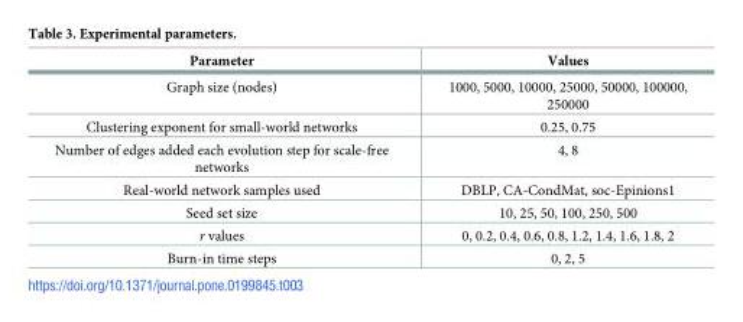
<table><thead><tr><td>Parameter</td><td>Values</td></tr></thead><tbody><tr><td>Graph size (nodes)</td><td>1000, 5000, 10000, 25000, 50000, 100000, 250000</td></tr><tr><td>Clustering exponent for small-world networks</td><td>0.25, 0.75</td></tr><tr><td>Number of edges added each evolution step for scale-free networks</td><td>4, 8</td></tr><tr><td>Real-world network samples used</td><td>DBLP, CA-CondMat, soc-Epinions1</td></tr><tr><td>Seed set size</td><td>10, 25, 50, 100, 250, 500</td></tr><tr><td>r values</td><td>0, 0.2, 0.4, 0.6, 0.8, 1.2, 1.4, 1.6, 1.8, 2</td></tr><tr><td>Burn-in time steps</td><td>0, 2, 5</td></tr></tbody></table>